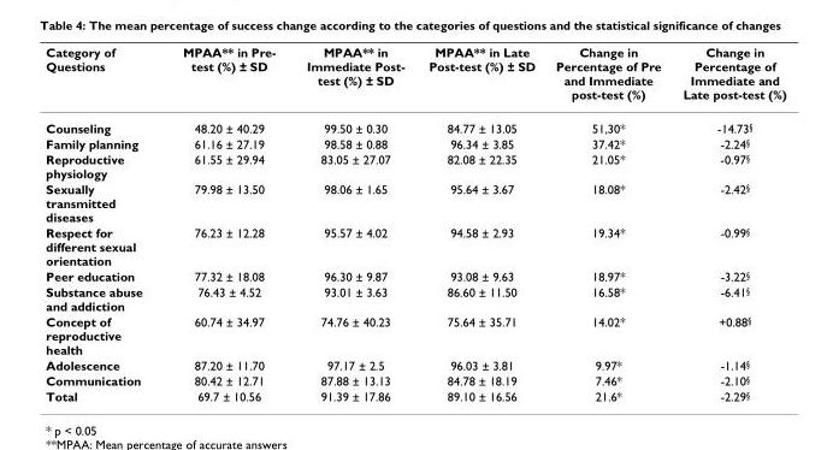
<table><thead><tr><td>Category of Questions</td><td>MPAA** in Pre- test (%) ± SD</td><td>MPAA** in Immediate Post- test (%) ± SD</td><td>MPAA** in Late Post-test (%) ± SD</td><td>Change in Percentage of Pre and Immediate post-test (%)</td><td>Change in Percentage of Immediate and Late post-test (%)</td></tr></thead><tbody><tr><td>Counseling</td><td>48.20 ± 40.29</td><td>99.50 ± 0.30</td><td>84.77 ± 13.05</td><td>51,30*</td><td>-14.73<sup>§</sup></td></tr><tr><td>Family planning</td><td>61.16 ± 27.19</td><td>98.58 ± 0.88</td><td>96.34 ± 3.85</td><td>37.42*</td><td>-2.24<sup>§</sup></td></tr><tr><td>Reproductive physiology</td><td>61.55 ± 29.94</td><td>83.05 ± 27.07</td><td>82.08 ± 22.35</td><td>21.05*</td><td>-0.97<sup>§</sup></td></tr><tr><td>Sexually transmitted diseases</td><td>79.98 ± 13.50</td><td>98.06 ± 1.65</td><td>95.64 ± 3.67</td><td>18.08*</td><td>-2.42<sup>§</sup></td></tr><tr><td>Respect for different sexual orientation</td><td>76.23 ± 12.28</td><td>95.57 ± 4.02</td><td>94.58 ± 2.93</td><td>19.34*</td><td>-0.99<sup>§</sup></td></tr><tr><td>Peer education</td><td>77.32 ± 18.08</td><td>96.30 ± 9.87</td><td>93.08 ± 9.63</td><td>18.97*</td><td>-3.22<sup>§</sup></td></tr><tr><td>Substance abuse and addiction</td><td>76.43 ± 4.52</td><td>93.01 ± 3.63</td><td>86.60 ± 11.50</td><td>16.58*</td><td>-6.41<sup>§</sup></td></tr><tr><td>Concept of reproductive health</td><td>60.74 ± 34.97</td><td>74.76 ± 40.23</td><td>75.64 ± 35.71</td><td>14.02*</td><td>+0.88<sup>§</sup></td></tr><tr><td>Adolescence</td><td>87.20 ± 11.70</td><td>97.17 ± 2.5</td><td>96.03 ± 3.81</td><td>9.97*</td><td>-1.14<sup>§</sup></td></tr><tr><td>Communication</td><td>80.42 ± 12.71</td><td>87.88 ± 13.13</td><td>84.78 ± 18.19</td><td>7.46*</td><td>-2.10<sup>§</sup></td></tr><tr><td>Total</td><td>69.7 ± 10.56</td><td>91.39 ± 17.86</td><td>89.10 ± 16.56</td><td>21.6*</td><td>-2.29<sup>§</sup></td></tr></tbody></table>